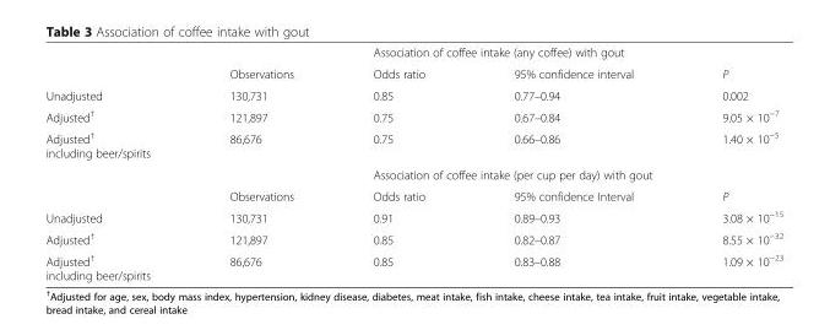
<table><thead><tr><td rowspan="2"></td><td rowspan="2">Observations</td><td colspan="3">Association of coffee intake (any coffee) with gout</td></tr><tr><td>Odds ratio</td><td>95% confidence interval</td><td>P</td></tr></thead><tbody><tr><td>Unadjusted</td><td>130,731</td><td>0.85</td><td>0.77–0.94</td><td>0.002</td></tr><tr><td>Adjusted<sup>†</sup></td><td>121,897</td><td>0.75</td><td>0.67–0.84</td><td>9.05 × 10<sup>−7</sup></td></tr><tr><td rowspan="3">Adjusted<sup>†</sup> including beer/spirits</td><td>86,676</td><td>0.75</td><td>0.66–0.86</td><td>1.40 × 10<sup>−5</sup></td></tr><tr><td></td><td colspan="3">Association of coffee intake (per cup per day) with gout</td></tr><tr><td>Observations</td><td>Odds ratio</td><td>95% confidence Interval</td><td>P</td></tr><tr><td>Unadjusted</td><td>130,731</td><td>0.91</td><td>0.89–0.93</td><td>3.08 × 10<sup>−15</sup></td></tr><tr><td>Adjusted<sup>†</sup></td><td>121,897</td><td>0.85</td><td>0.82–0.87</td><td>8.55 × 10<sup>−32</sup></td></tr><tr><td>Adjusted<sup>†</sup> including beer/spirits</td><td>86,676</td><td>0.85</td><td>0.83–0.88</td><td>1.09 × 10<sup>−23</sup></td></tr></tbody></table>